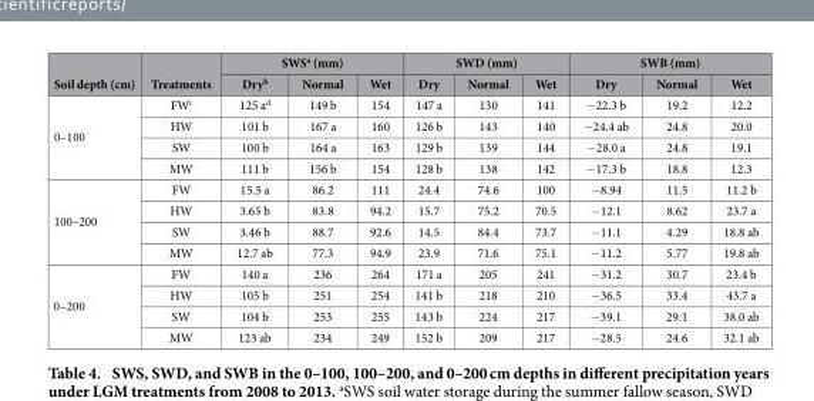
<table><thead><tr><td rowspan="2">Soil depth (cm)</td><td rowspan="2">Treatments</td><td colspan="3">SWS<sup>a</sup> (mm)</td><td colspan="3">SWD (mm)</td><td colspan="3">SWB (mm)</td></tr><tr><td>Dry<sup>b</sup></td><td>Normal</td><td>Wet</td><td>Dry</td><td>Normal</td><td>Wet</td><td>Dry</td><td>Normal</td><td>Wet</td></tr></thead><tbody><tr><td rowspan="4">0–100</td><td>FW<sup>c</sup></td><td>125 a<sup>d</sup></td><td>149 b</td><td>154</td><td>147 a</td><td>130</td><td>141</td><td>− 22.3 b</td><td>19.2</td><td>12.2</td></tr><tr><td>HW</td><td>101 b</td><td>167 a</td><td>160</td><td>126 b</td><td>143</td><td>140</td><td>− 24.4 ab</td><td>24.8</td><td>20.0</td></tr><tr><td>SW</td><td>100 b</td><td>164 a</td><td>163</td><td>129 b</td><td>139</td><td>144</td><td>− 28.0 a</td><td>24.8</td><td>19.1</td></tr><tr><td>MW</td><td>111 b</td><td>156 b</td><td>154</td><td>128 b</td><td>138</td><td>142</td><td>− 17.3 b</td><td>18.8</td><td>12.3</td></tr><tr><td rowspan="4">100–200</td><td>FW</td><td>15.5 a</td><td>86.2</td><td>111</td><td>24.4</td><td>74.6</td><td>100</td><td>− 8.94</td><td>11.5</td><td>11.2 b</td></tr><tr><td>HW</td><td>3.65 b</td><td>83.8</td><td>94.2</td><td>15.7</td><td>75.2</td><td>70.5</td><td>− 12.1</td><td>8.62</td><td>23.7 a</td></tr><tr><td>SW</td><td>3.46 b</td><td>88.7</td><td>92.6</td><td>14.5</td><td>84.4</td><td>73.7</td><td>− 11.1</td><td>4.29</td><td>18.8 ab</td></tr><tr><td>MW</td><td>12.7 ab</td><td>77.3</td><td>94.9</td><td>23.9</td><td>71.6</td><td>75.1</td><td>− 11.2</td><td>5.77</td><td>19.8 ab</td></tr><tr><td rowspan="4">0–200</td><td>FW</td><td>140 a</td><td>236</td><td>264</td><td>171 a</td><td>205</td><td>241</td><td>− 31.2</td><td>30.7</td><td>23.4 b</td></tr><tr><td>HW</td><td>105 b</td><td>251</td><td>254</td><td>141 b</td><td>218</td><td>210</td><td>− 36.5</td><td>33.4</td><td>43.7 a</td></tr><tr><td>SW</td><td>104 b</td><td>253</td><td>255</td><td>143 b</td><td>224</td><td>217</td><td>− 39.1</td><td>29.1</td><td>38.0 ab</td></tr><tr><td>MW</td><td>123 ab</td><td>234</td><td>249</td><td>152 b</td><td>209</td><td>217</td><td>− 28.5</td><td>24.6</td><td>32.1 ab</td></tr></tbody></table>